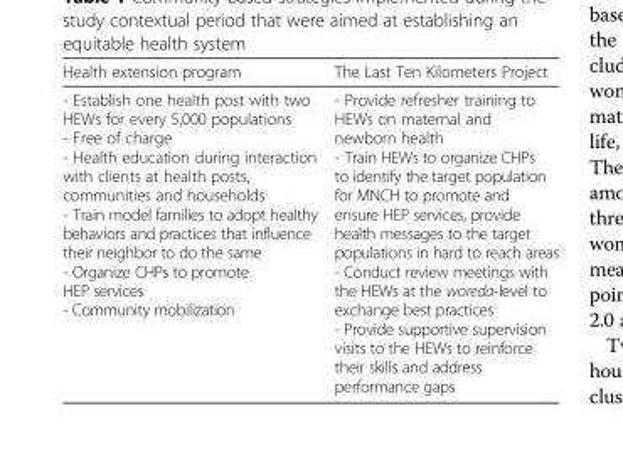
<table><thead><tr><td>Health extension program</td><td>The Last Ten Kilometers Project</td></tr></thead><tbody><tr><td>- Establish one health post with two HEWs for every 5,000 populations - Free of charge - Health education during interaction with clients at health posts, communities and households - Train model families to adopt healthy behaviors and practices that influence their neighbor to do the same - Organize CHPs to promote HEP services - Community mobilization</td><td>- Provide refresher training to HEWs on maternal and newborn health - Train HEWs to organize CHPs to identify the target population for MNCH to promote and ensure HEP services, provide health messages to the target populations in hard to reach areas - Conduct review meetings with the HEWs at the woreda-level to exchange best practices - Provide supportive supervision visits to the HEWs to reinforce their skills and address performance gaps</td></tr></tbody></table>